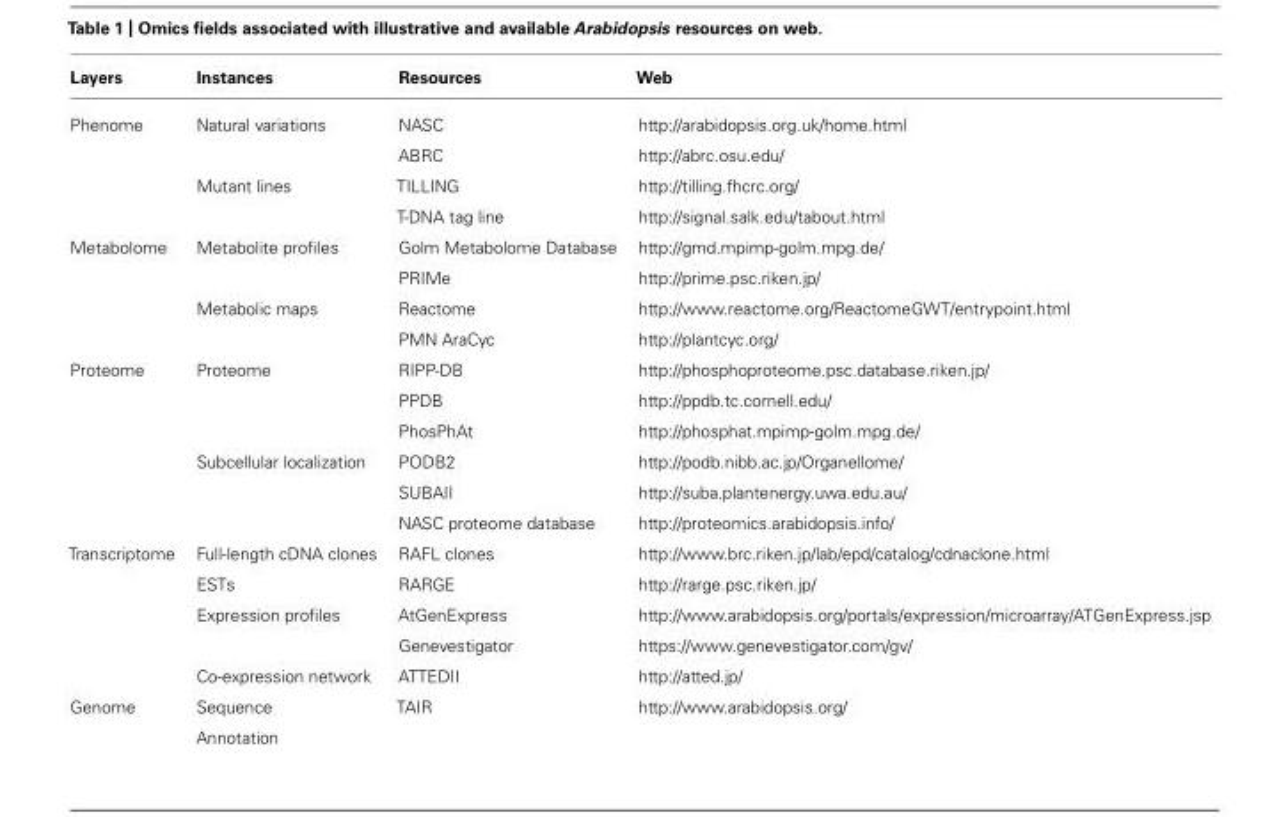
<table><thead><tr><td>Layers</td><td>Instances</td><td>Resources</td><td>Web</td></tr></thead><tbody><tr><td rowspan="4">Phenome</td><td>Natural variations</td><td>NASC</td><td>http://arabidopsis.org.uk/home.html</td></tr><tr><td></td><td>ABRC</td><td>http://abrc.osu.edu/</td></tr><tr><td>Mutant lines</td><td>TILLING</td><td>http://tilling.fhcrc.org/</td></tr><tr><td></td><td>T-DNA tag line</td><td>http://signal.salk.edu/tabout.html</td></tr><tr><td rowspan="4">Metabolome</td><td>Metabolite profiles</td><td>Golm Metabolome Database</td><td>http://gmd.mpimp-golm.mpg.de/</td></tr><tr><td></td><td>PRIMe</td><td>http://prime.psc.riken.jp/</td></tr><tr><td>Metabolic maps</td><td>Reactome</td><td>http://www.reactome.org/ReactomeGWT/entrypoint.html</td></tr><tr><td></td><td>PMN AraCyc</td><td>http://plantcyc.org/</td></tr><tr><td rowspan="6">Proteome</td><td>Proteome</td><td>RIPP-DB</td><td>http://phosphoproteome.psc.database.riken.jp/</td></tr><tr><td></td><td>PPDB</td><td>http://ppdb.tc.cornell.edu/</td></tr><tr><td></td><td>PhosPhAt</td><td>http://phosphat.mpimp-golm.mpg.de/</td></tr><tr><td>Subcellular localization</td><td>PODB2</td><td>http://podb.nibb.ac.jp/Organellome/</td></tr><tr><td></td><td>SUBAII</td><td>http://suba.plantenergy.uwa.edu.au/</td></tr><tr><td></td><td>NASC proteome database</td><td>http://proteomics.arabidopsis.info/</td></tr><tr><td rowspan="5">Transcriptome</td><td>Full-length cDNA clones</td><td>RAFL clones</td><td>http://www.brc.riken.jp/lab/epd/catalog/cdnaclone.html</td></tr><tr><td>ESTs</td><td>RARGE</td><td>http://rarge.psc.riken.jp/</td></tr><tr><td>Expression profiles</td><td>AtGenExpress</td><td>http://www.arabidopsis.org/portals/expression/microarray/ATGenExpress.jsp</td></tr><tr><td></td><td>Genevestigator</td><td>https://www.genevestigator.com/gv/</td></tr><tr><td>Co-expression network</td><td>ATTEDII</td><td>http://atted.jp/</td></tr><tr><td rowspan="2">Genome</td><td>Sequence</td><td>TAIR</td><td>http://www.arabidopsis.org/</td></tr><tr><td>Annotation</td><td></td><td></td></tr></tbody></table>